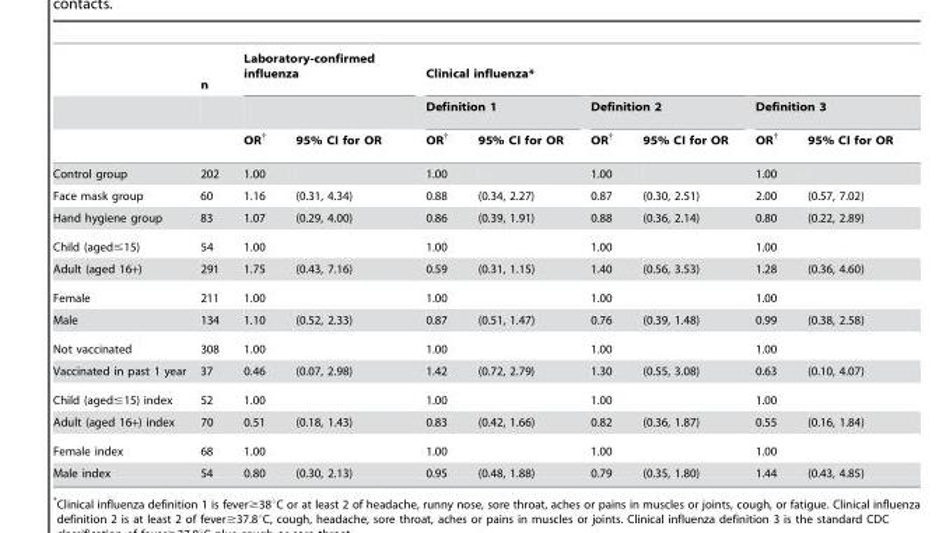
<table><thead><tr><td rowspan="3"></td><td rowspan="3">n</td><td colspan="2">Laboratory-confirmed influenza</td><td colspan="6">Clinical influenza*</td></tr><tr><td rowspan="2">OR†</td><td rowspan="2">95% CI for OR</td><td colspan="2">Definition 1</td><td colspan="2">Definition 2</td><td colspan="2">Definition 3</td></tr><tr><td>OR†</td><td>95% CI for OR</td><td>OR†</td><td>95% CI for OR</td><td>OR†</td><td>95% CI for OR</td></tr></thead><tbody><tr><td>Control group</td><td>202</td><td>1.00</td><td></td><td>1.00</td><td></td><td>1.00</td><td></td><td>1.00</td><td></td></tr><tr><td>Face mask group</td><td>60</td><td>1.16</td><td>(0.31, 4.34)</td><td>0.88</td><td>(0.34, 2.27)</td><td>0.87</td><td>(0.30, 2.51)</td><td>2.00</td><td>(0.57, 7.02)</td></tr><tr><td>Hand hygiene group</td><td>83</td><td>1.07</td><td>(0.29, 4.00)</td><td>0.86</td><td>(0.39, 1.91)</td><td>0.88</td><td>(0.36, 2.14)</td><td>0.80</td><td>(0.22, 2.89)</td></tr><tr><td>Child (aged≤15)</td><td>54</td><td>1.00</td><td></td><td>1.00</td><td></td><td>1.00</td><td></td><td>1.00</td><td></td></tr><tr><td>Adult (aged 16+)</td><td>291</td><td>1.75</td><td>(0.43, 7.16)</td><td>0.59</td><td>(0.31, 1.15)</td><td>1.40</td><td>(0.56, 3.53)</td><td>1.28</td><td>(0.36, 4.60)</td></tr><tr><td>Female</td><td>211</td><td>1.00</td><td></td><td>1.00</td><td></td><td>1.00</td><td></td><td>1.00</td><td></td></tr><tr><td>Male</td><td>134</td><td>1.10</td><td>(0.52, 2.33)</td><td>0.87</td><td>(0.51, 1.47)</td><td>0.76</td><td>(0.39, 1.48)</td><td>0.99</td><td>(0.38, 2.58)</td></tr><tr><td>Not vaccinated</td><td>308</td><td>1.00</td><td></td><td>1.00</td><td></td><td>1.00</td><td></td><td>1.00</td><td></td></tr><tr><td>Vaccinated in past 1 year</td><td>37</td><td>0.46</td><td>(0.07, 2.98)</td><td>1.42</td><td>(0.72, 2.79)</td><td>1.30</td><td>(0.55, 3.08)</td><td>0.63</td><td>(0.10, 4.07)</td></tr><tr><td>Child (aged≤15) index</td><td>52</td><td>1.00</td><td></td><td>1.00</td><td></td><td>1.00</td><td></td><td>1.00</td><td></td></tr><tr><td>Adult (aged 16+) index</td><td>70</td><td>0.51</td><td>(0.18, 1.43)</td><td>0.83</td><td>(0.42, 1.66)</td><td>0.82</td><td>(0.36, 1.87)</td><td>0.55</td><td>(0.16, 1.84)</td></tr><tr><td>Female index</td><td>68</td><td>1.00</td><td></td><td>1.00</td><td></td><td>1.00</td><td></td><td>1.00</td><td></td></tr><tr><td>Male index</td><td>54</td><td>0.80</td><td>(0.30, 2.13)</td><td>0.95</td><td>(0.48, 1.88)</td><td>0.79</td><td>(0.35, 1.80)</td><td>1.44</td><td>(0.43, 4.85)</td></tr></tbody></table>